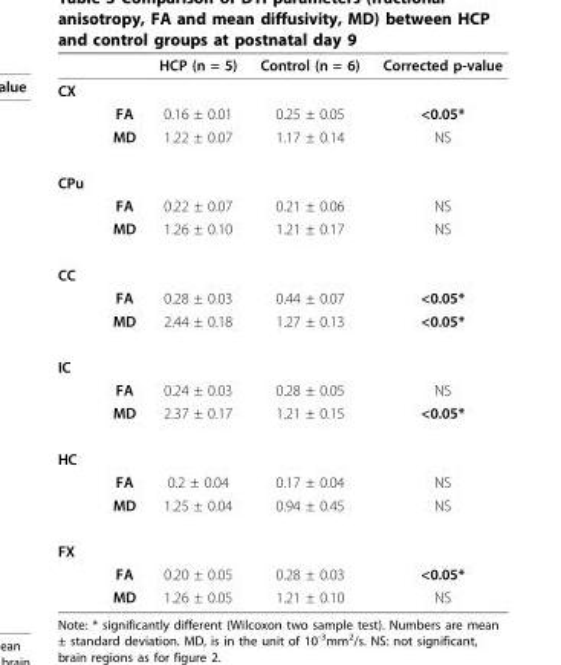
<table><thead><tr><td></td><td></td><td>HCP (n = 5)</td><td>Control (n = 6)</td><td>Corrected p-value</td></tr></thead><tbody><tr><td colspan="5">CX</td></tr><tr><td></td><td>FA</td><td>0.16 ± 0.01</td><td>0.25 ± 0.05</td><td>&lt;0.05*</td></tr><tr><td></td><td>MD</td><td>1.22 ± 0.07</td><td>1.17 ± 0.14</td><td>NS</td></tr><tr><td colspan="5">CPu</td></tr><tr><td></td><td>FA</td><td>0.22 ± 0.07</td><td>0.21 ± 0.06</td><td>NS</td></tr><tr><td></td><td>MD</td><td>1.26 ± 0.10</td><td>1.21 ± 0.17</td><td>NS</td></tr><tr><td colspan="5">CC</td></tr><tr><td></td><td>FA</td><td>0.28 ± 0.03</td><td>0.44 ± 0.07</td><td>&lt;0.05*</td></tr><tr><td></td><td>MD</td><td>2.44 ± 0.18</td><td>1.27 ± 0.13</td><td>&lt;0.05*</td></tr><tr><td colspan="5">IC</td></tr><tr><td></td><td>FA</td><td>0.24 ± 0.03</td><td>0.28 ± 0.05</td><td>NS</td></tr><tr><td></td><td>MD</td><td>2.37 ± 0.17</td><td>1.21 ± 0.15</td><td>&lt;0.05*</td></tr><tr><td colspan="5">HC</td></tr><tr><td></td><td>FA</td><td>0.2 ± 0.04</td><td>0.17 ± 0.04</td><td>NS</td></tr><tr><td></td><td>MD</td><td>1.25 ± 0.04</td><td>0.94 ± 0.45</td><td>NS</td></tr><tr><td colspan="5">FX</td></tr><tr><td></td><td>FA</td><td>0.20 ± 0.05</td><td>0.28 ± 0.03</td><td>&lt;0.05*</td></tr><tr><td></td><td>MD</td><td>1.26 ± 0.05</td><td>1.21 ± 0.10</td><td>NS</td></tr></tbody></table>